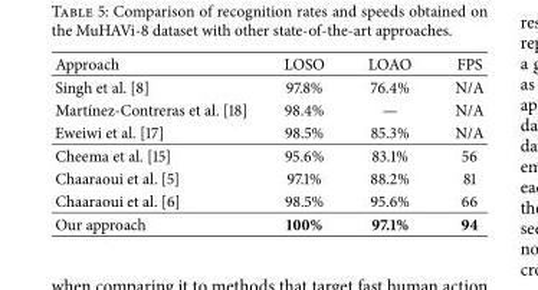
<table><thead><tr><td>Approach</td><td>LOSO</td><td>LOAO</td><td>FPS</td></tr></thead><tbody><tr><td>Singh et al. [8]</td><td>97.8%</td><td>76.4%</td><td>N/A</td></tr><tr><td>Mart´ınez-Contreras et al. [18]</td><td>98.4%</td><td>—</td><td>N/A</td></tr><tr><td>Eweiwi et al. [17]</td><td>98.5%</td><td>85.3%</td><td>N/A</td></tr><tr><td>Cheema et al. [15]</td><td>95.6%</td><td>83.1%</td><td>56</td></tr><tr><td>Chaaraoui et al. [5]</td><td>97.1%</td><td>88.2%</td><td>81</td></tr><tr><td>Chaaraoui et al. [6]</td><td>98.5%</td><td>95.6%</td><td>66</td></tr><tr><td>Our approach</td><td>100%</td><td>97.1%</td><td>94</td></tr></tbody></table>